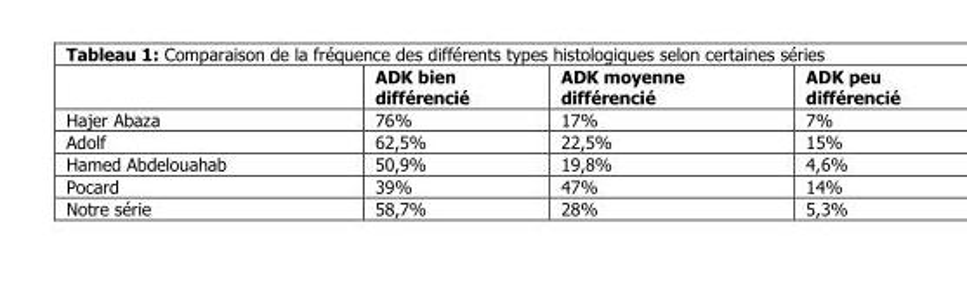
<table><thead><tr><td></td><td>ADK bien différencié</td><td>ADK moyenne différencié</td><td>ADK peu différencié</td></tr></thead><tbody><tr><td>Hajer Abaza</td><td>76%</td><td>17%</td><td>7%</td></tr><tr><td>Adolf</td><td>62,5%</td><td>22,5%</td><td>15%</td></tr><tr><td>Hamed Abdelouahab</td><td>50,9%</td><td>19,8%</td><td>4,6%</td></tr><tr><td>Pocard</td><td>39%</td><td>47%</td><td>14%</td></tr><tr><td>Notre série</td><td>58,7%</td><td>28%</td><td>5,3%</td></tr></tbody></table>